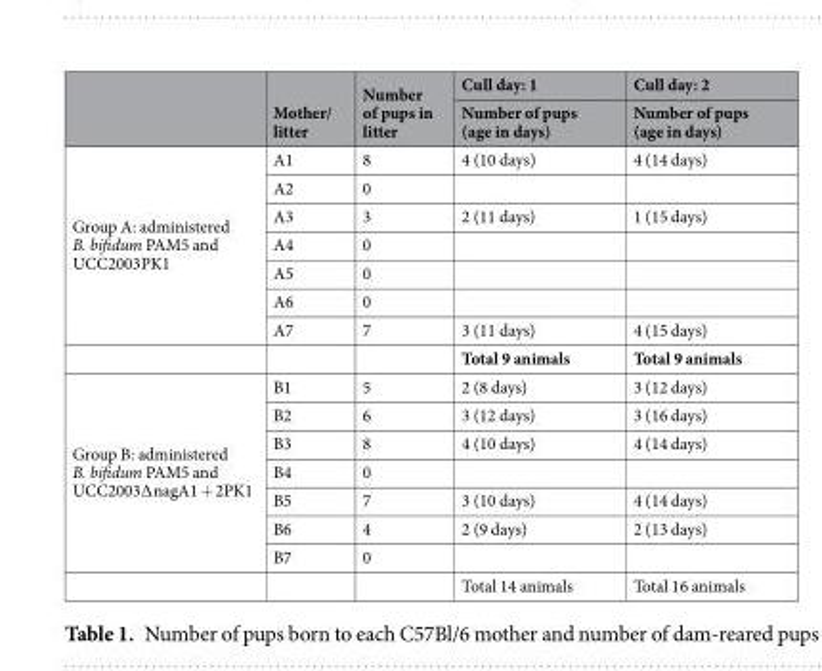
<table><thead><tr><td rowspan="2"></td><td rowspan="2">Mother/ litter</td><td rowspan="2">Number of pups in litter</td><td rowspan="2">Cull day: 1 Number of pups (age in days)</td><td rowspan="2">Cull day: 2 Number of pups (age in days)</td></tr><tr></tr></thead><tbody><tr><td rowspan="8">Group A: administered B. bifidum PAM5 and UCC2003PK1</td><td>A1</td><td>8</td><td>4 (10 days)</td><td>4 (14 days)</td></tr><tr><td>A2</td><td>0</td><td></td><td></td></tr><tr><td>A3</td><td>3</td><td>2 (11 days)</td><td>1 (15 days)</td></tr><tr><td>A4</td><td>0</td><td></td><td></td></tr><tr><td>A5</td><td>0</td><td></td><td></td></tr><tr><td>A6</td><td>0</td><td></td><td></td></tr><tr><td>A7</td><td>7</td><td>3 (11 days)</td><td>4 (15 days)</td></tr><tr><td></td><td></td><td>Total 9 animals</td><td>Total 9 animals</td></tr><tr><td rowspan="8">Group B: administered B. bifidum PAM5 and UCC2003∆nagA1 + 2PK1</td><td>B1</td><td>5</td><td>2 (8 days)</td><td>3 (12 days)</td></tr><tr><td>B2</td><td>6</td><td>3 (12 days)</td><td>3 (16 days)</td></tr><tr><td>B3</td><td>8</td><td>4 (10 days)</td><td>4 (14 days)</td></tr><tr><td>B4</td><td>0</td><td></td><td></td></tr><tr><td>B5</td><td>7</td><td>3 (10 days)</td><td>4 (14 days)</td></tr><tr><td>B6</td><td>4</td><td>2 (9 days)</td><td>2 (13 days)</td></tr><tr><td>B7</td><td>0</td><td></td><td></td></tr><tr><td></td><td></td><td>Total 14 animals</td><td>Total 16 animals</td></tr></tbody></table>